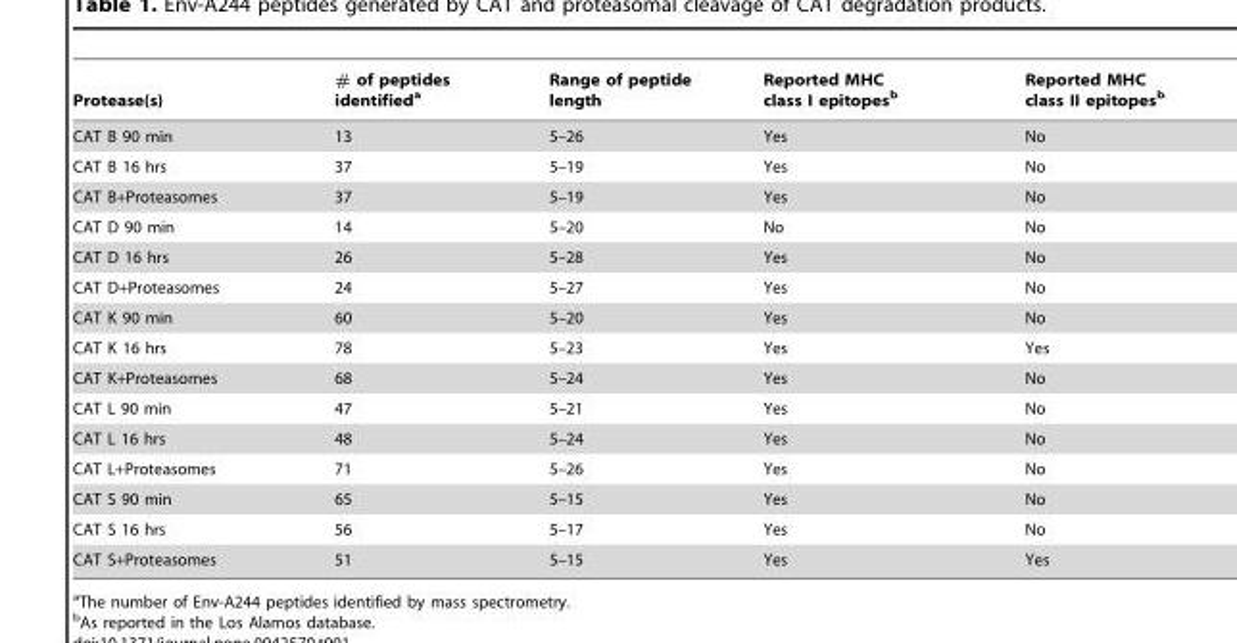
<table><thead><tr><td>Protease(s)</td><td># of peptides identified<sup>a</sup></td><td>Range of peptide length</td><td>Reported MHC class I epitopes<sup>b</sup></td><td>Reported MHC class II epitopes<sup>b</sup></td></tr></thead><tbody><tr><td>CAT B 90 min</td><td>13</td><td>5–26</td><td>Yes</td><td>No</td></tr><tr><td>CAT B 16 hrs</td><td>37</td><td>5–19</td><td>Yes</td><td>No</td></tr><tr><td>CAT B+Proteasomes</td><td>37</td><td>5–19</td><td>Yes</td><td>No</td></tr><tr><td>CAT D 90 min</td><td>14</td><td>5–20</td><td>No</td><td>No</td></tr><tr><td>CAT D 16 hrs</td><td>26</td><td>5–28</td><td>Yes</td><td>No</td></tr><tr><td>CAT D+Proteasomes</td><td>24</td><td>5–27</td><td>Yes</td><td>No</td></tr><tr><td>CAT K 90 min</td><td>60</td><td>5–20</td><td>Yes</td><td>No</td></tr><tr><td>CAT K 16 hrs</td><td>78</td><td>5–23</td><td>Yes</td><td>Yes</td></tr><tr><td>CAT K+Proteasomes</td><td>68</td><td>5–24</td><td>Yes</td><td>No</td></tr><tr><td>CAT L 90 min</td><td>47</td><td>5–21</td><td>Yes</td><td>No</td></tr><tr><td>CAT L 16 hrs</td><td>48</td><td>5–24</td><td>Yes</td><td>No</td></tr><tr><td>CAT L+Proteasomes</td><td>71</td><td>5–26</td><td>Yes</td><td>No</td></tr><tr><td>CAT S 90 min</td><td>65</td><td>5–15</td><td>Yes</td><td>No</td></tr><tr><td>CAT S 16 hrs</td><td>56</td><td>5–17</td><td>Yes</td><td>No</td></tr><tr><td>CAT S+Proteasomes</td><td>51</td><td>5–15</td><td>Yes</td><td>Yes</td></tr></tbody></table>